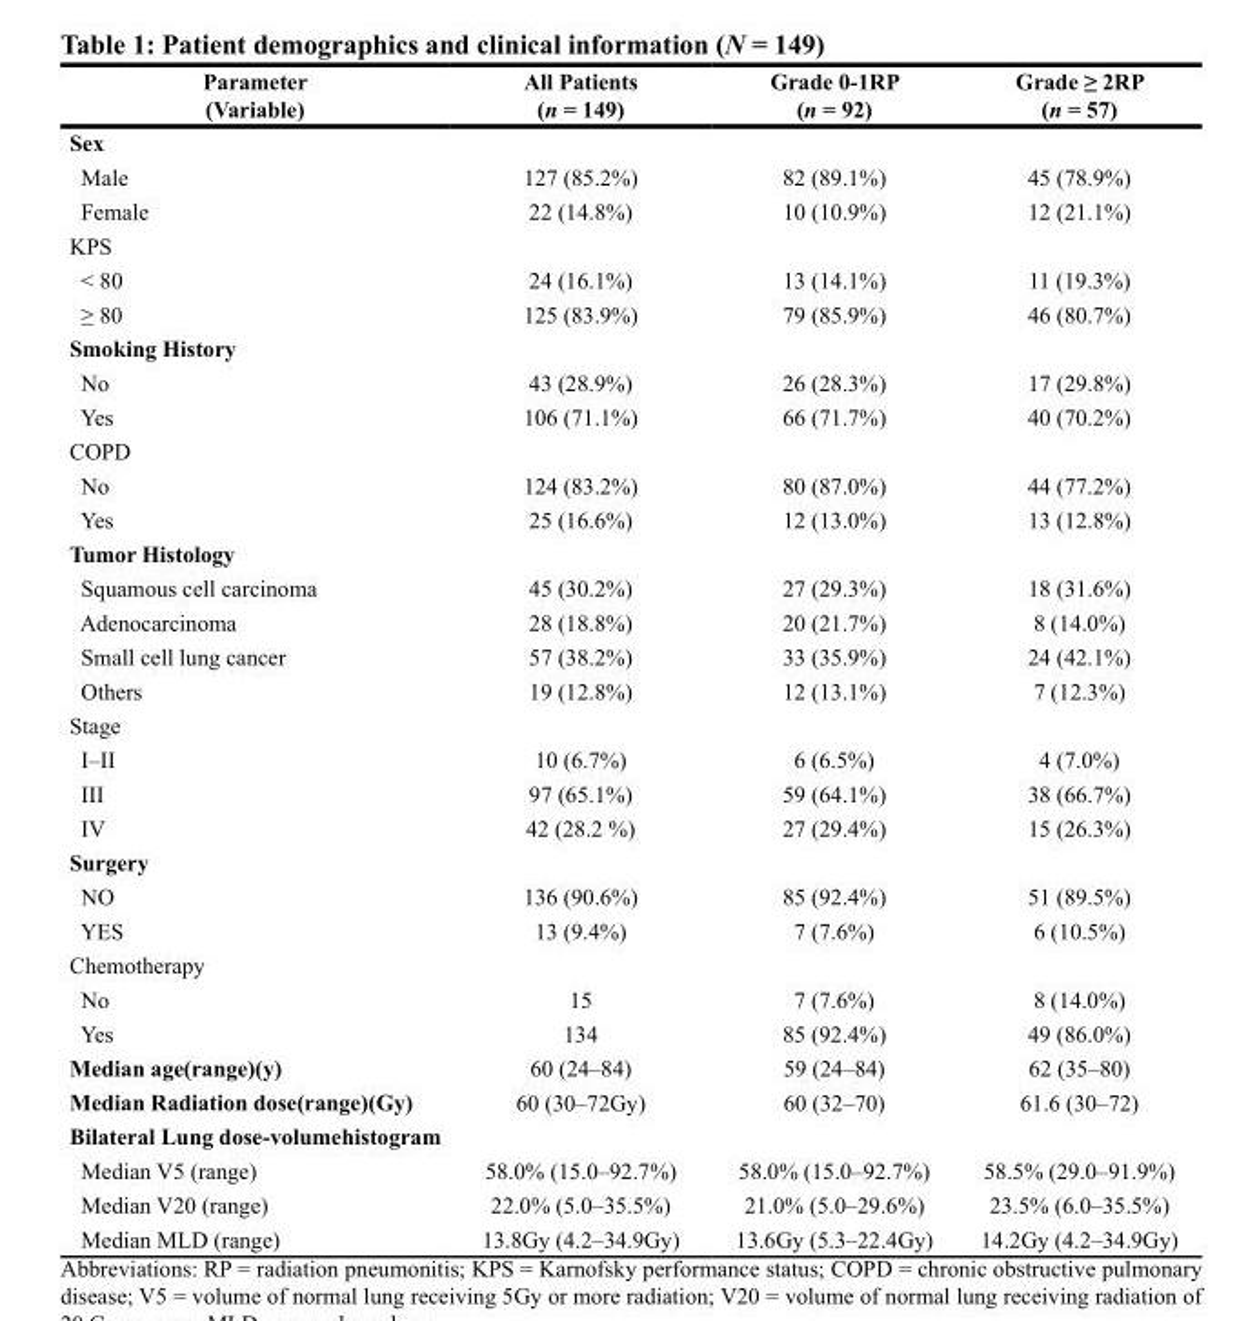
<table><thead><tr><td>Parameter (Variable)</td><td>All Patients (n = 149)</td><td>Grade 0-1RP (n = 92)</td><td>Grade ≥ 2RP (n = 57)</td></tr></thead><tbody><tr><td colspan="4">Sex</td></tr><tr><td>Male</td><td>127 (85.2%)</td><td>82 (89.1%)</td><td>45 (78.9%)</td></tr><tr><td>Female</td><td>22 (14.8%)</td><td>10 (10.9%)</td><td>12 (21.1%)</td></tr><tr><td colspan="4">KPS</td></tr><tr><td>&lt; 80</td><td>24 (16.1%)</td><td>13 (14.1%)</td><td>11 (19.3%)</td></tr><tr><td>≥ 80</td><td>125 (83.9%)</td><td>79 (85.9%)</td><td>46 (80.7%)</td></tr><tr><td colspan="4">Smoking History</td></tr><tr><td>No</td><td>43 (28.9%)</td><td>26 (28.3%)</td><td>17 (29.8%)</td></tr><tr><td>Yes</td><td>106 (71.1%)</td><td>66 (71.7%)</td><td>40 (70.2%)</td></tr><tr><td colspan="4">COPD</td></tr><tr><td>No</td><td>124 (83.2%)</td><td>80 (87.0%)</td><td>44 (77.2%)</td></tr><tr><td>Yes</td><td>25 (16.6%)</td><td>12 (13.0%)</td><td>13 (12.8%)</td></tr><tr><td colspan="4">Tumor Histology</td></tr><tr><td>Squamous cell carcinoma</td><td>45 (30.2%)</td><td>27 (29.3%)</td><td>18 (31.6%)</td></tr><tr><td>Adenocarcinoma</td><td>28 (18.8%)</td><td>20 (21.7%)</td><td>8 (14.0%)</td></tr><tr><td>Small cell lung cancer</td><td>57 (38.2%)</td><td>33 (35.9%)</td><td>24 (42.1%)</td></tr><tr><td>Others</td><td>19 (12.8%)</td><td>12 (13.1%)</td><td>7 (12.3%)</td></tr><tr><td colspan="4">Stage</td></tr><tr><td>I–II</td><td>10 (6.7%)</td><td>6 (6.5%)</td><td>4 (7.0%)</td></tr><tr><td>III</td><td>97 (65.1%)</td><td>59 (64.1%)</td><td>38 (66.7%)</td></tr><tr><td>IV</td><td>42 (28.2 %)</td><td>27 (29.4%)</td><td>15 (26.3%)</td></tr><tr><td colspan="4">Surgery</td></tr><tr><td>NO</td><td>136 (90.6%)</td><td>85 (92.4%)</td><td>51 (89.5%)</td></tr><tr><td>YES</td><td>13 (9.4%)</td><td>7 (7.6%)</td><td>6 (10.5%)</td></tr><tr><td colspan="4">Chemotherapy</td></tr><tr><td>No</td><td>15</td><td>7 (7.6%)</td><td>8 (14.0%)</td></tr><tr><td>Yes</td><td>134</td><td>85 (92.4%)</td><td>49 (86.0%)</td></tr><tr><td>Median age(range)(y)</td><td>60 (24–84)</td><td>59 (24–84)</td><td>62 (35–80)</td></tr><tr><td>Median Radiation dose(range)(Gy)</td><td>60 (30–72Gy)</td><td>60 (32–70)</td><td>61.6 (30–72)</td></tr><tr><td colspan="4">Bilateral Lung dose-volumehistogram</td></tr><tr><td>Median V5 (range)</td><td>58.0% (15.0–92.7%)</td><td>58.0% (15.0–92.7%)</td><td>58.5% (29.0–91.9%)</td></tr><tr><td>Median V20 (range)</td><td>22.0% (5.0–35.5%)</td><td>21.0% (5.0–29.6%)</td><td>23.5% (6.0–35.5%)</td></tr><tr><td>Median MLD (range)</td><td>13.8Gy (4.2–34.9Gy)</td><td>13.6Gy (5.3–22.4Gy)</td><td>14.2Gy (4.2–34.9Gy)</td></tr></tbody></table>